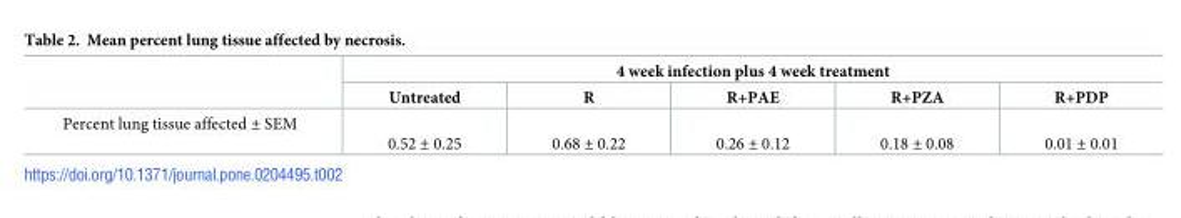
<table><thead><tr><td rowspan="2"></td><td colspan="5">4 week infection plus 4 week treatment</td></tr><tr><td>Untreated</td><td>R</td><td>R+PAE</td><td>R+PZA</td><td>R+PDP</td></tr></thead><tbody><tr><td>Percent lung tissue affected ± SEM</td><td>0.52 ± 0.25</td><td>0.68 ± 0.22</td><td>0.26 ± 0.12</td><td>0.18 ± 0.08</td><td>0.01 ± 0.01</td></tr></tbody></table>